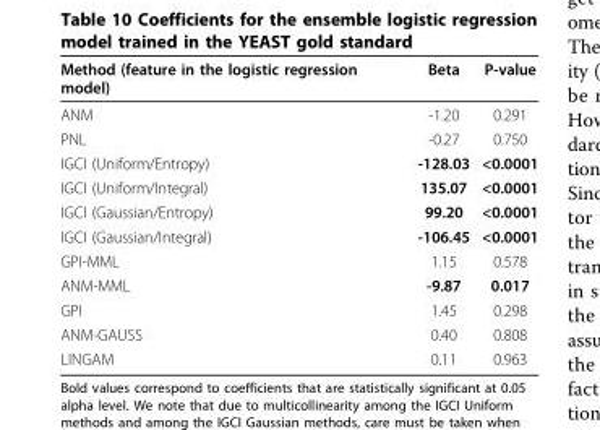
<table><thead><tr><td>Method (feature in the logistic regression model)</td><td>Beta</td><td>P-value</td></tr></thead><tbody><tr><td>ANM</td><td>-1.20</td><td>0.291</td></tr><tr><td>PNL</td><td>-0.27</td><td>0.750</td></tr><tr><td>IGCI (Uniform/Entropy)</td><td>-128.03</td><td>&lt;0.0001</td></tr><tr><td>IGCI (Uniform/Integral)</td><td>135.07</td><td>&lt;0.0001</td></tr><tr><td>IGCI (Gaussian/Entropy)</td><td>99.20</td><td>&lt;0.0001</td></tr><tr><td>IGCI (Gaussian/Integral)</td><td>-106.45</td><td>&lt;0.0001</td></tr><tr><td>GPI-MML</td><td>1.15</td><td>0.578</td></tr><tr><td>ANM-MML</td><td>-9.87</td><td>0.017</td></tr><tr><td>GPI</td><td>1.45</td><td>0.298</td></tr><tr><td>ANM-GAUSS</td><td>0.40</td><td>0.808</td></tr><tr><td>LINGAM</td><td>0.11</td><td>0.963</td></tr></tbody></table>